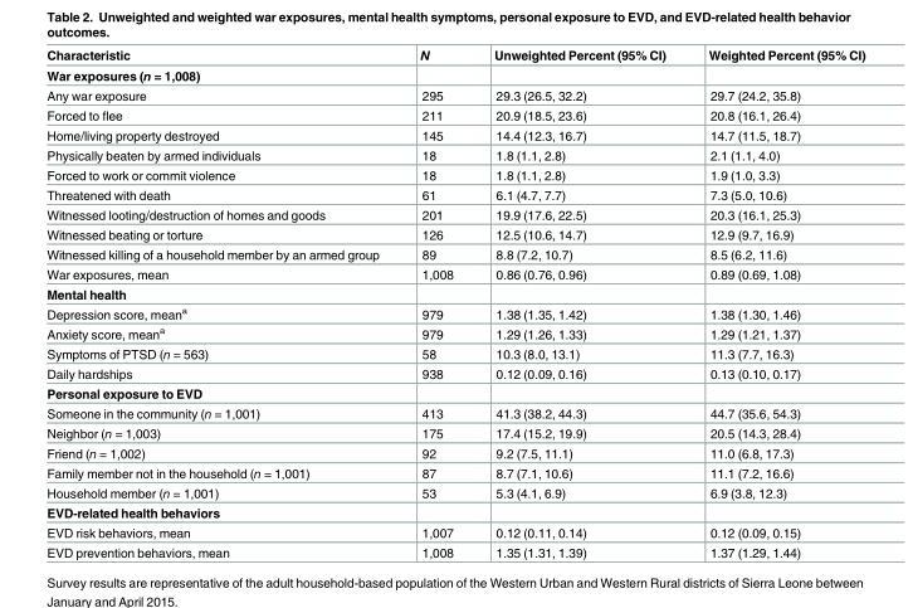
<table><thead><tr><td>Characteristic</td><td>N</td><td>Unweighted Percent (95% CI)</td><td>Weighted Percent (95% CI)</td></tr></thead><tbody><tr><td colspan="4">War exposures (n = 1,008)</td></tr><tr><td>Any war exposure</td><td>295</td><td>29.3 (26.5, 32.2)</td><td>29.7 (24.2, 35.8)</td></tr><tr><td>Forced to flee</td><td>211</td><td>20.9 (18.5, 23.6)</td><td>20.8 (16.1, 26.4)</td></tr><tr><td>Home/living property destroyed</td><td>145</td><td>14.4 (12.3, 16.7)</td><td>14.7 (11.5, 18.7)</td></tr><tr><td>Physically beaten by armed individuals</td><td>18</td><td>1.8 (1.1, 2.8)</td><td>2.1 (1.1, 4.0)</td></tr><tr><td>Forced to work or commit violence</td><td>18</td><td>1.8 (1.1, 2.8)</td><td>1.9 (1.0, 3.3)</td></tr><tr><td>Threatened with death</td><td>61</td><td>6.1 (4.7, 7.7)</td><td>7.3 (5.0, 10.6)</td></tr><tr><td>Witnessed looting/destruction of homes and goods</td><td>201</td><td>19.9 (17.6, 22.5)</td><td>20.3 (16.1, 25.3)</td></tr><tr><td>Witnessed beating or torture</td><td>126</td><td>12.5 (10.6, 14.7)</td><td>12.9 (9.7, 16.9)</td></tr><tr><td>Witnessed killing of a household member by an armed group</td><td>89</td><td>8.8 (7.2, 10.7)</td><td>8.5 (6.2, 11.6)</td></tr><tr><td>War exposures, mean</td><td>1,008</td><td>0.86 (0.76, 0.96)</td><td>0.89 (0.69, 1.08)</td></tr><tr><td colspan="4">Mental health</td></tr><tr><td>Depression score, mean<sup>a</sup></td><td>979</td><td>1.38 (1.35, 1.42)</td><td>1.38 (1.30, 1.46)</td></tr><tr><td>Anxiety score, mean<sup>a</sup></td><td>979</td><td>1.29 (1.26, 1.33)</td><td>1.29 (1.21, 1.37)</td></tr><tr><td>Symptoms of PTSD (n = 563)</td><td>58</td><td>10.3 (8.0, 13.1)</td><td>11.3 (7.7, 16.3)</td></tr><tr><td>Daily hardships</td><td>938</td><td>0.12 (0.09, 0.16)</td><td>0.13 (0.10, 0.17)</td></tr><tr><td colspan="4">Personal exposure to EVD</td></tr><tr><td>Someone in the community (n = 1,001)</td><td>413</td><td>41.3 (38.2, 44.3)</td><td>44.7 (35.6, 54.3)</td></tr><tr><td>Neighbor (n = 1,003)</td><td>175</td><td>17.4 (15.2, 19.9)</td><td>20.5 (14.3, 28.4)</td></tr><tr><td>Friend (n = 1,002)</td><td>92</td><td>9.2 (7.5, 11.1)</td><td>11.0 (6.8, 17.3)</td></tr><tr><td>Family member not in the household (n = 1,001)</td><td>87</td><td>8.7 (7.1, 10.6)</td><td>11.1 (7.2, 16.6)</td></tr><tr><td>Household member (n = 1,001)</td><td>53</td><td>5.3 (4.1, 6.9)</td><td>6.9 (3.8, 12.3)</td></tr><tr><td colspan="4">EVD-related health behaviors</td></tr><tr><td>EVD risk behaviors, mean</td><td>1,007</td><td>0.12 (0.11, 0.14)</td><td>0.12 (0.09, 0.15)</td></tr><tr><td>EVD prevention behaviors, mean</td><td>1,008</td><td>1.35 (1.31, 1.39)</td><td>1.37 (1.29, 1.44)</td></tr></tbody></table>